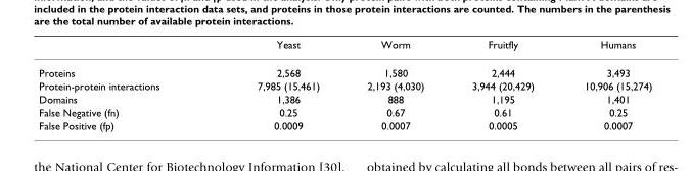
<table><thead><tr><td></td><td>Yeast</td><td>Worm</td><td>Fruitfly</td><td>Humans</td></tr></thead><tbody><tr><td>Proteins</td><td>2,568</td><td>1,580</td><td>2,444</td><td>3,493</td></tr><tr><td>Protein-protein interactions</td><td>7,985 (15,461)</td><td>2,193 (4,030)</td><td>3,944 (20,429)</td><td>10,906 (15,274)</td></tr><tr><td>Domains</td><td>1,386</td><td>888</td><td>1,195</td><td>1,401</td></tr><tr><td>False Negative (fn)</td><td>0.25</td><td>0.67</td><td>0.61</td><td>0.25</td></tr><tr><td>False Positive (fp)</td><td>0.0009</td><td>0.0007</td><td>0.0005</td><td>0.0007</td></tr></tbody></table>